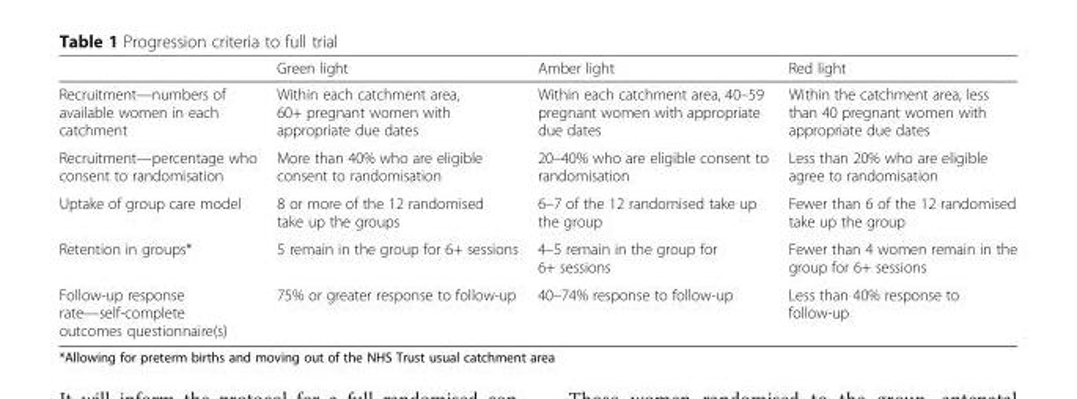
<table><thead><tr><td></td><td>Green light</td><td>Amber light</td><td>Red light</td></tr></thead><tbody><tr><td>Recruitment—numbers of available women in each catchment</td><td>Within each catchment area, 60+ pregnant women with appropriate due dates</td><td>Within each catchment area, 40–59 pregnant women with appropriate due dates</td><td>Within the catchment area, less than 40 pregnant women with appropriate due dates</td></tr><tr><td>Recruitment—percentage who consent to randomisation</td><td>More than 40% who are eligible consent to randomisation</td><td>20–40% who are eligible consent to randomisation</td><td>Less than 20% who are eligible agree to randomisation</td></tr><tr><td>Uptake of group care model</td><td>8 or more of the 12 randomised take up the groups</td><td>6–7 of the 12 randomised take up the group</td><td>Fewer than 6 of the 12 randomised take up the group</td></tr><tr><td>Retention in groups*</td><td>5 remain in the group for 6+ sessions</td><td>4–5 remain in the group for 6+ sessions</td><td>Fewer than 4 women remain in the group for 6+ sessions</td></tr><tr><td>Follow-up response rate—self-complete outcomes questionnaire(s)</td><td>75% or greater response to follow-up</td><td>40–74% response to follow-up</td><td>Less than 40% response to follow-up</td></tr></tbody></table>